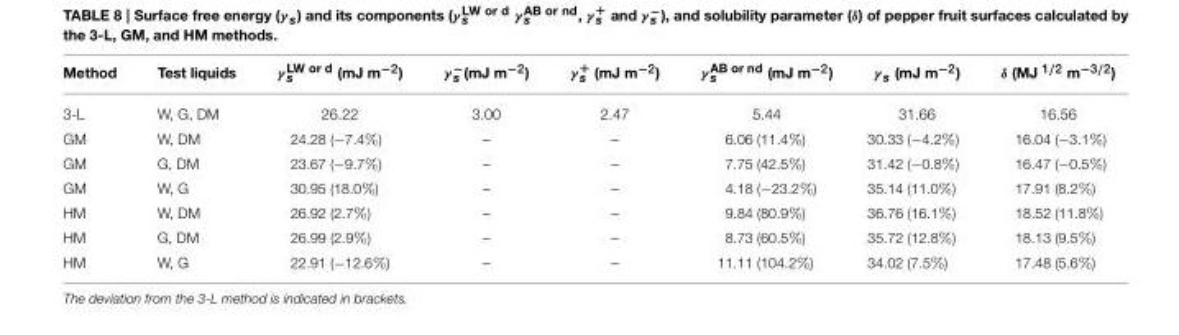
<table><thead><tr><td>Method</td><td>Test liquids</td><td>γ <sup>LW or d</sup> <sub>s</sub> (mJ m<sup>−2</sup>)</td><td>γ <sup>−</sup><sub>s</sub> (mJ m<sup>−2</sup>)</td><td>γ <sup>+</sup> <sub>s</sub> (mJ m<sup>−2</sup>)</td><td>γ AB or nd s (mJ m−2)</td><td>γ <sub>s</sub> (mJ m<sup>−2</sup>)</td><td>δ (MJ <sup>1/2</sup> m<sup>−3/2</sup>)</td></tr></thead><tbody><tr><td>3-L</td><td>W, G, DM</td><td>26.22</td><td>3.00</td><td>2.47</td><td>5.44</td><td>31.66</td><td>16.56</td></tr><tr><td>GM</td><td>W, DM</td><td>24.28 (−7.4%)</td><td>–</td><td>–</td><td>6.06 (11.4%)</td><td>30.33 (−4.2%)</td><td>16.04 (−3.1%)</td></tr><tr><td>GM</td><td>G, DM</td><td>23.67 (−9.7%)</td><td>–</td><td>–</td><td>7.75 (42.5%)</td><td>31.42 (−0.8%)</td><td>16.47 (−0.5%)</td></tr><tr><td>GM</td><td>W, G</td><td>30.95 (18.0%)</td><td>–</td><td>–</td><td>4.18 (−23.2%)</td><td>35.14 (11.0%)</td><td>17.91 (8.2%)</td></tr><tr><td>HM</td><td>W, DM</td><td>26.92 (2.7%)</td><td>–</td><td>–</td><td>9.84 (80.9%)</td><td>36.76 (16.1%)</td><td>18.52 (11.8%)</td></tr><tr><td>HM</td><td>G, DM</td><td>26.99 (2.9%)</td><td>–</td><td>–</td><td>8.73 (60.5%)</td><td>35.72 (12.8%)</td><td>18.13 (9.5%)</td></tr><tr><td>HM</td><td>W, G</td><td>22.91 (−12.6%)</td><td>–</td><td>–</td><td>11.11 (104.2%)</td><td>34.02 (7.5%)</td><td>17.48 (5.6%)</td></tr></tbody></table>